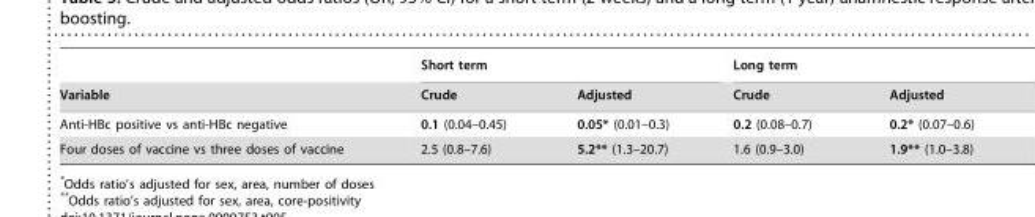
<table><thead><tr><td rowspan="2">Variable</td><td colspan="2">Short term</td><td colspan="2">Long term</td></tr><tr><td>Crude</td><td>Adjusted</td><td>Crude</td><td>Adjusted</td></tr></thead><tbody><tr><td>Anti-HBc positive vs anti-HBc negative</td><td>0.1 (0.04–0.45)</td><td>0.05* (0.01–0.3)</td><td>0.2 (0.08–0.7)</td><td>0.2* (0.07–0.6)</td></tr><tr><td>Four doses of vaccine vs three doses of vaccine</td><td>2.5 (0.8–7.6)</td><td>5.2** (1.3–20.7)</td><td>1.6 (0.9–3.0)</td><td>1.9** (1.0–3.8)</td></tr></tbody></table>